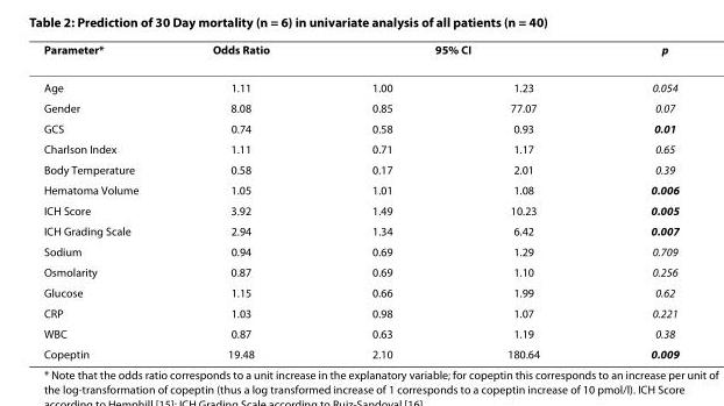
<table><thead><tr><td rowspan="2">Parameter* Age</td><td rowspan="2">Odds Ratio 1.11</td><td colspan="2">95% CI</td><td rowspan="2">p 0.054</td></tr><tr><td>1.00</td><td>1.23</td></tr></thead><tbody><tr><td>Gender</td><td>8.08</td><td>0.85</td><td>77.07</td><td>0.07</td></tr><tr><td>GCS</td><td>0.74</td><td>0.58</td><td>0.93</td><td>0.01</td></tr><tr><td>Charlson Index</td><td>1.11</td><td>0.71</td><td>1.17</td><td>0.65</td></tr><tr><td>Body Temperature</td><td>0.58</td><td>0.17</td><td>2.01</td><td>0.39</td></tr><tr><td>Hematoma Volume</td><td>1.05</td><td>1.01</td><td>1.08</td><td>0.006</td></tr><tr><td>ICH Score</td><td>3.92</td><td>1.49</td><td>10.23</td><td>0.005</td></tr><tr><td>ICH Grading Scale</td><td>2.94</td><td>1.34</td><td>6.42</td><td>0.007</td></tr><tr><td>Sodium</td><td>0.94</td><td>0.69</td><td>1.29</td><td>0.709</td></tr><tr><td>Osmolarity</td><td>0.87</td><td>0.69</td><td>1.10</td><td>0.256</td></tr><tr><td>Glucose</td><td>1.15</td><td>0.66</td><td>1.99</td><td>0.62</td></tr><tr><td>CRP</td><td>1.03</td><td>0.98</td><td>1.07</td><td>0.221</td></tr><tr><td>WBC</td><td>0.87</td><td>0.63</td><td>1.19</td><td>0.38</td></tr><tr><td>Copeptin</td><td>19.48</td><td>2.10</td><td>180.64</td><td>0.009</td></tr></tbody></table>